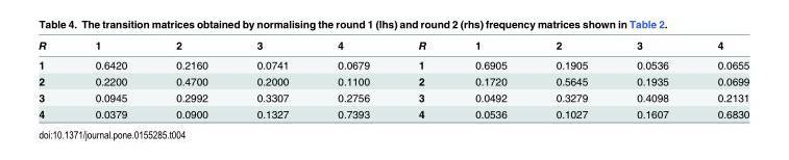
<table><thead><tr><td>R</td><td>1</td><td>2</td><td>3</td><td>4</td><td>R</td><td>1</td><td>2</td><td>3</td><td>4</td></tr></thead><tbody><tr><td>1</td><td>0.6420</td><td>0.2160</td><td>0.0741</td><td>0.0679</td><td>1</td><td>0.6905</td><td>0.1905</td><td>0.0536</td><td>0.0655</td></tr><tr><td>2</td><td>0.2200</td><td>0.4700</td><td>0.2000</td><td>0.1100</td><td>2</td><td>0.1720</td><td>0.5645</td><td>0.1935</td><td>0.0699</td></tr><tr><td>3</td><td>0.0945</td><td>0.2992</td><td>0.3307</td><td>0.2756</td><td>3</td><td>0.0492</td><td>0.3279</td><td>0.4098</td><td>0.2131</td></tr><tr><td>4</td><td>0.0379</td><td>0.0900</td><td>0.1327</td><td>0.7393</td><td>4</td><td>0.0536</td><td>0.1027</td><td>0.1607</td><td>0.6830</td></tr></tbody></table>